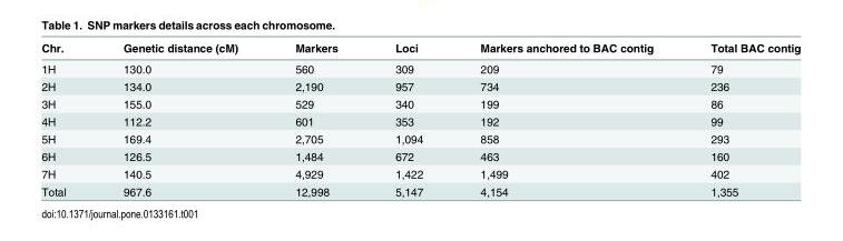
<table><thead><tr><td>Chr.</td><td>Genetic distance (cM)</td><td>Markers</td><td>Loci</td><td>Markers anchored to BAC contig</td><td>Total BAC contig</td></tr></thead><tbody><tr><td>1H</td><td>130.0</td><td>560</td><td>309</td><td>209</td><td>79</td></tr><tr><td>2H</td><td>134.0</td><td>2,190</td><td>957</td><td>734</td><td>236</td></tr><tr><td>3H</td><td>155.0</td><td>529</td><td>340</td><td>199</td><td>86</td></tr><tr><td>4H</td><td>112.2</td><td>601</td><td>353</td><td>192</td><td>99</td></tr><tr><td>5H</td><td>169.4</td><td>2,705</td><td>1,094</td><td>858</td><td>293</td></tr><tr><td>6H</td><td>126.5</td><td>1,484</td><td>672</td><td>463</td><td>160</td></tr><tr><td>7H</td><td>140.5</td><td>4,929</td><td>1,422</td><td>1,499</td><td>402</td></tr><tr><td>Total</td><td>967.6</td><td>12,998</td><td>5,147</td><td>4,154</td><td>1,355</td></tr></tbody></table>